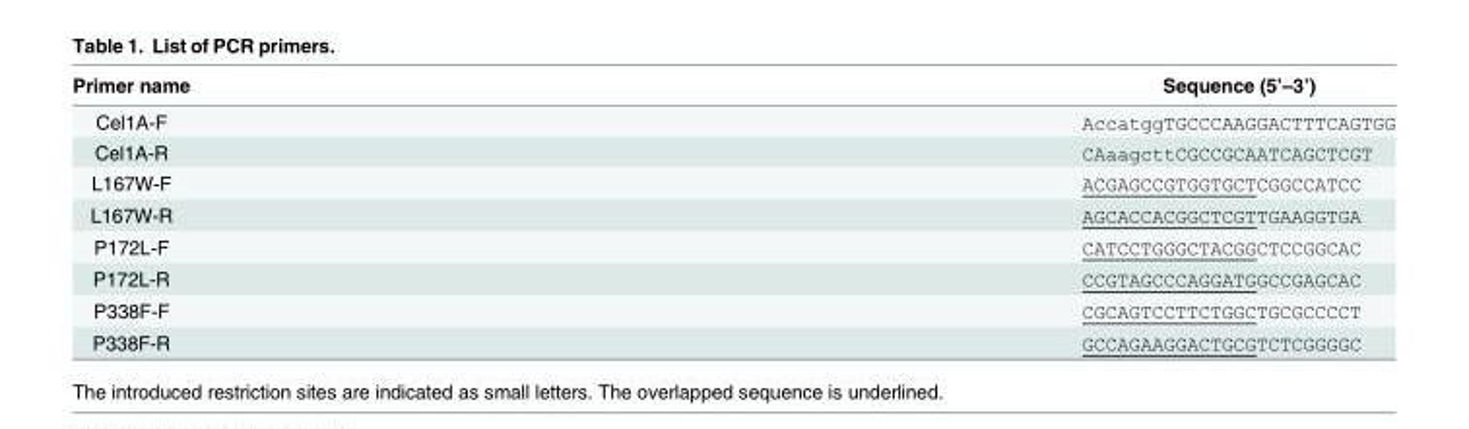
<table><thead><tr><td>Primer name</td><td>Sequence (5’–3’)</td></tr></thead><tbody><tr><td>Cel1A-F</td><td>AccatggTGCCCAAGGACTTTCAGTGG</td></tr><tr><td>Cel1A-R</td><td>CAaagcttCGCCGCAATCAGCTCGT</td></tr><tr><td>L167W-F</td><td>ACGAGCCGTGGTGCTCGGCCATCC</td></tr><tr><td>L167W-R</td><td>AGCACCACGGCTCGTTGAAGGTGA</td></tr><tr><td>P172L-F</td><td>CATCCTGGGCTACGGCTCCGGCAC</td></tr><tr><td>P172L-R</td><td>CCGTAGCCCAGGATGGCCGAGCAC</td></tr><tr><td>P338F-F</td><td>CGCAGTCCTTCTGGCTGCGCCCCT</td></tr><tr><td>P338F-R</td><td>GCCAGAAGGACTGCGTCTCGGGGC</td></tr></tbody></table>